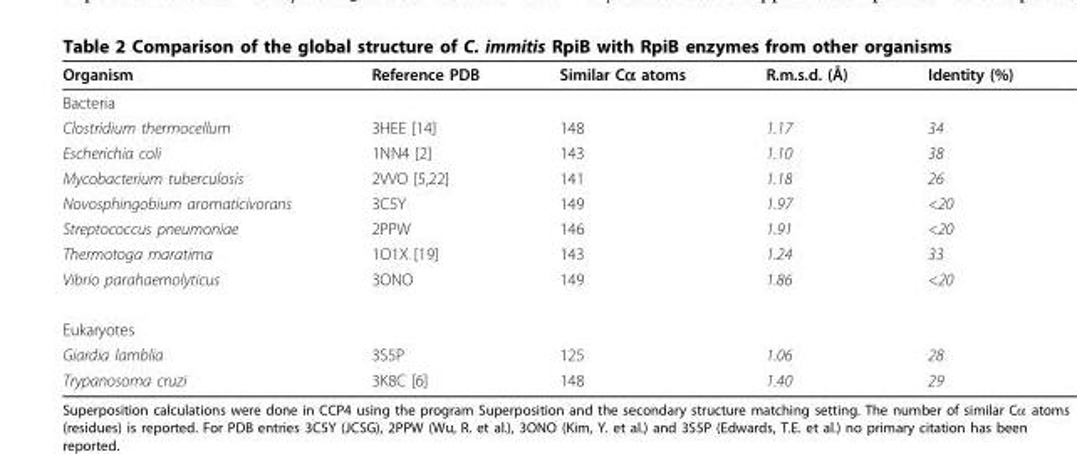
<table><thead><tr><td>Organism</td><td>Reference PDB</td><td>Similar Cα atoms</td><td>R.m.s.d. (Å)</td><td>Identity (%)</td></tr></thead><tbody><tr><td colspan="5">Bacteria</td></tr><tr><td>Clostridium thermocellum</td><td>3HEE [14]</td><td>148</td><td>1.17</td><td>34</td></tr><tr><td>Escherichia coli</td><td>1NN4 [2]</td><td>143</td><td>1.10</td><td>38</td></tr><tr><td>Mycobacterium tuberculosis</td><td>2VVO [5,22]</td><td>141</td><td>1.18</td><td>26</td></tr><tr><td>Novosphingobium aromaticivorans</td><td>3C5Y</td><td>149</td><td>1.97</td><td>&lt;20</td></tr><tr><td>Streptococcus pneumoniae</td><td>2PPW</td><td>146</td><td>1.91</td><td>&lt;20</td></tr><tr><td>Thermotoga maratima</td><td>1O1X [19]</td><td>143</td><td>1.24</td><td>33</td></tr><tr><td>Vibrio parahaemolyticus</td><td>3ONO</td><td>149</td><td>1.86</td><td>&lt;20</td></tr><tr><td colspan="5">Eukaryotes</td></tr><tr><td>Giardia lamblia</td><td>3S5P</td><td>125</td><td>1.06</td><td>28</td></tr><tr><td>Trypanosoma cruzi</td><td>3K8C [6]</td><td>148</td><td>1.40</td><td>29</td></tr></tbody></table>